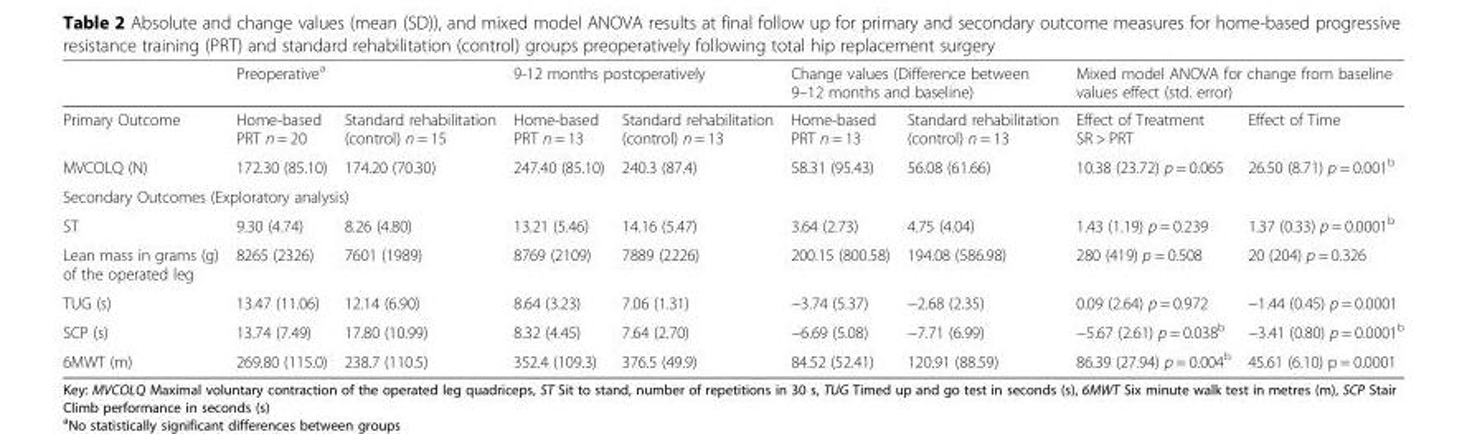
<table><thead><tr><td rowspan="2">Primary Outcome</td><td colspan="2">Preoperative<sup>a</sup></td><td colspan="2">9-12 months postoperatively</td><td colspan="2">Change values (Difference between 9–12 months and baseline)</td><td colspan="2">Mixed model ANOVA for change from baseline values effect (std. error)</td></tr><tr><td>Home-based PRT n = 20</td><td>Standard rehabilitation (control) n = 15</td><td>Home-based PRT n = 13</td><td>Standard rehabilitation (control) n = 13</td><td>Home-based PRT n = 13</td><td>Standard rehabilitation (control) n = 13</td><td>Effect of Treatment SR &gt; PRT</td><td>Effect of Time</td></tr></thead><tbody><tr><td>MVCOLQ (N)</td><td>172.30 (85.10)</td><td>174.20 (70.30)</td><td>247.40 (85.10)</td><td>240.3 (87.4)</td><td>58.31 (95.43)</td><td>56.08 (61.66)</td><td>10.38 (23.72) p = 0.065</td><td>26.50 (8.71) p = 0.001<sup>b</sup></td></tr><tr><td colspan="9">Secondary Outcomes (Exploratory analysis)</td></tr><tr><td>ST</td><td>9.30 (4.74)</td><td>8.26 (4.80)</td><td>13.21 (5.46)</td><td>14.16 (5.47)</td><td>3.64 (2.73)</td><td>4.75 (4.04)</td><td>1.43 (1.19) p = 0.239</td><td>1.37 (0.33) p = 0.0001<sup>b</sup></td></tr><tr><td>Lean mass in grams (g) of the operated leg</td><td>8265 (2326)</td><td>7601 (1989)</td><td>8769 (2109)</td><td>7889 (2226)</td><td>200.15 (800.58)</td><td>194.08 (586.98)</td><td>280 (419) p = 0.508</td><td>20 (204) p = 0.326</td></tr><tr><td>TUG (s)</td><td>13.47 (11.06)</td><td>12.14 (6.90)</td><td>8.64 (3.23)</td><td>7.06 (1.31)</td><td>−3.74 (5.37)</td><td>−2.68 (2.35)</td><td>0.09 (2.64) p = 0.972</td><td>−1.44 (0.45) p = 0.0001</td></tr><tr><td>SCP (s)</td><td>13.74 (7.49)</td><td>17.80 (10.99)</td><td>8.32 (4.45)</td><td>7.64 (2.70)</td><td>−6.69 (5.08)</td><td>−7.71 (6.99)</td><td>−5.67 (2.61) p = 0.038<sup>b</sup></td><td>−3.41 (0.80) p = 0.0001<sup>b</sup></td></tr><tr><td>6MWT (m)</td><td>269.80 (115.0)</td><td>238.7 (110.5)</td><td>352.4 (109.3)</td><td>376.5 (49.9)</td><td>84.52 (52.41)</td><td>120.91 (88.59)</td><td>86.39 (27.94) p = 0.004<sup>b</sup></td><td>45.61 (6.10) p = 0.0001</td></tr></tbody></table>